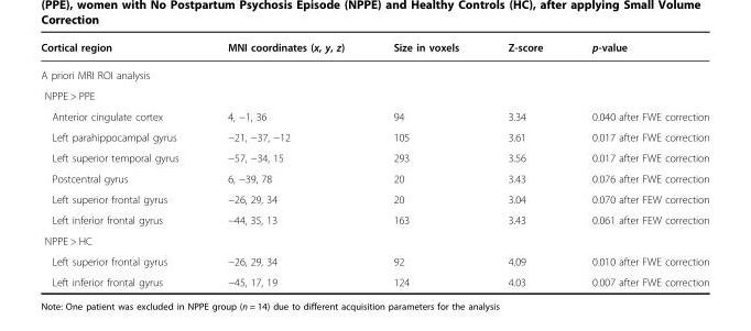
<table><thead><tr><td>Cortical region</td><td>MNI coordinates (x, y, z)</td><td>Size in voxels</td><td>Z-score</td><td>p-value</td></tr></thead><tbody><tr><td colspan="5">A priori MRI ROI analysis</td></tr><tr><td colspan="5">NPPE &gt; PPE</td></tr><tr><td>Anterior cingulate cortex</td><td>4, −1, 36</td><td>94</td><td>3.34</td><td>0.040 after FWE correction</td></tr><tr><td>Left parahippocampal gyrus</td><td>−21, −37, −12</td><td>105</td><td>3.61</td><td>0.017 after FWE correction</td></tr><tr><td>Left superior temporal gyrus</td><td>−57, −34, 15</td><td>293</td><td>3.56</td><td>0.017 after FWE correction</td></tr><tr><td>Postcentral gyrus</td><td>6, −39, 78</td><td>20</td><td>3.43</td><td>0.076 after FWE correction</td></tr><tr><td>Left superior frontal gyrus</td><td>−26, 29, 34</td><td>20</td><td>3.04</td><td>0.070 after FEW correction</td></tr><tr><td>Left inferior frontal gyrus</td><td>−44, 35, 13</td><td>163</td><td>3.43</td><td>0.061 after FEW correction</td></tr><tr><td colspan="5">NPPE &gt; HC</td></tr><tr><td>Left superior frontal gyrus</td><td>−26, 29, 34</td><td>92</td><td>4.09</td><td>0.010 after FWE correction</td></tr><tr><td>Left inferior frontal gyrus</td><td>−45, 17, 19</td><td>124</td><td>4.03</td><td>0.007 after FWE correction</td></tr></tbody></table>